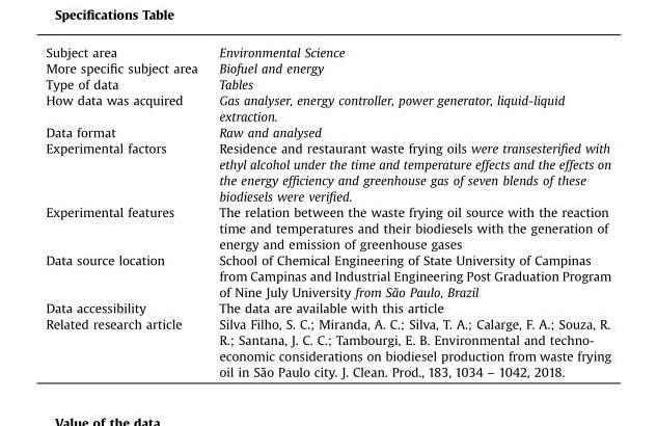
<table><tbody><tr><td>Subject area</td><td>Environmental Science</td></tr><tr><td>More specific subject area</td><td>Biofuel and energy</td></tr><tr><td>Type of data</td><td>Tables</td></tr><tr><td>How data was acquired</td><td>Gas analyser, energy controller, power generator, liquid-liquid extraction.</td></tr><tr><td>Data format</td><td>Raw and analysed</td></tr><tr><td>Experimental factors</td><td>Residence and restaurant waste frying oils were transesterified with ethyl alcohol under the time and temperature effects and the effects on the energy efficiency and greenhouse gas of seven blends of these biodiesels were verified.</td></tr><tr><td>Experimental features</td><td>The relation between the waste frying oil source with the reaction time and temperatures and their biodiesels with the generation of energy and emission of greenhouse gases</td></tr><tr><td>Data source location</td><td>School of Chemical Engineering of State University of Campinas from Campinas and Industrial Engineering Post Graduation Program of Nine July University from São Paulo, Brazil</td></tr><tr><td>Data accessibility</td><td>The data are available with this article</td></tr><tr><td>Related research article</td><td>Silva Filho, S. C.; Miranda, A. C.; Silva, T. A.; Calarge, F. A.; Souza, R. R.; Santana, J. C. C.; Tambourgi, E. B. Environmental and techno- economic considerations on biodiesel production from waste frying oil in São Paulo city. J. Clean. Prod., 183, 1034 – 1042, 2018.</td></tr></tbody></table>